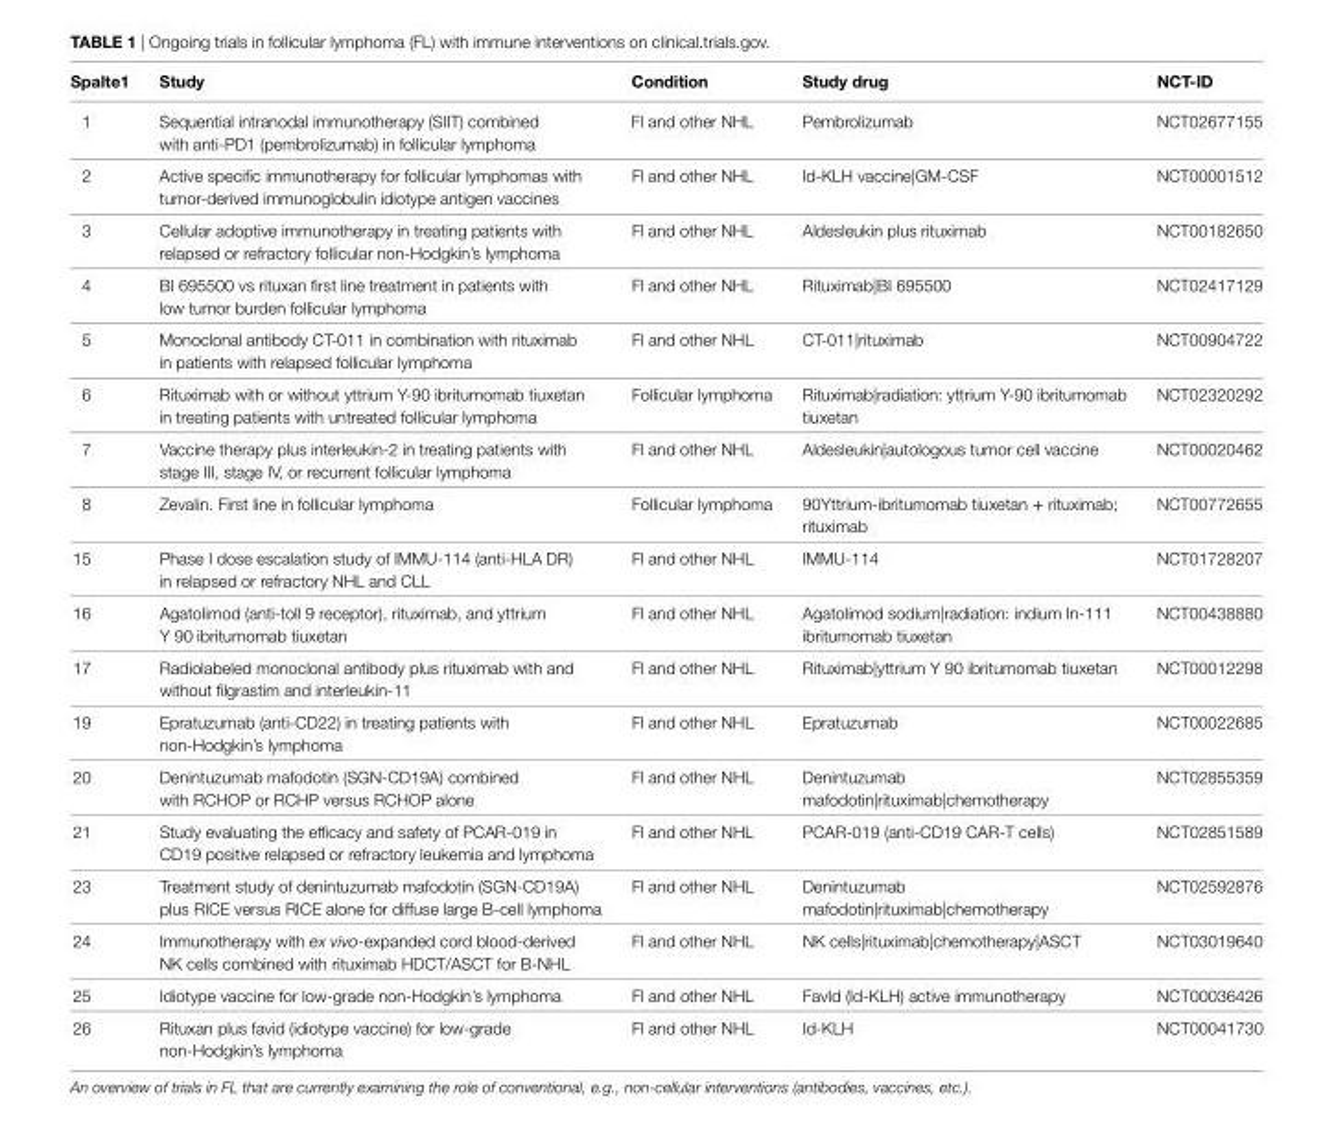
<table><thead><tr><td>Spalte1</td><td>Study</td><td>Condition</td><td>Study drug</td><td>NCT-iD</td></tr></thead><tbody><tr><td>1</td><td>Sequential intranodal immunotherapy (SIIT) combined with anti-PD1 (pembrolizumab) in follicular lymphoma</td><td>Fl and other NHL</td><td>Pembrolizumab</td><td>NCT02677155</td></tr><tr><td>2</td><td>Active specific immunotherapy for follicular lymphomas with tumor-derived immunoglobulin idiotype antigen vaccines</td><td>Fl and other NHL</td><td>Id-KLH vaccine|GM-CSF</td><td>NCT00001512</td></tr><tr><td>3</td><td>Cellular adoptive immunotherapy in treating patients with relapsed or refractory follicular non-Hodgkin’s lymphoma</td><td>Fl and other NHL</td><td>Aldesleukin plus rituximab</td><td>NCT00182650</td></tr><tr><td>4</td><td>BI 695500 vs rituxan first line treatment in patients with low tumor burden follicular lymphoma</td><td>Fl and other NHL</td><td>Rituximab|BI 695500</td><td>NCT02417129</td></tr><tr><td>5</td><td>Monoclonal antibody CT-011 in combination with rituximab in patients with relapsed follicular lymphoma</td><td>Fl and other NHL</td><td>CT-011|rituximab</td><td>NCT00904722</td></tr><tr><td>6</td><td>Rituximab with or without yttrium Y-90 ibritumomab tiuxetan in treating patients with untreated follicular lymphoma</td><td>Follicular lymphoma</td><td>Rituximab|radiation: yttrium Y-90 ibritumomab tiuxetan</td><td>NCT02320292</td></tr><tr><td>7</td><td>Vaccine therapy plus interleukin-2 in treating patients with stage III, stage IV, or recurrent follicular lymphoma</td><td>Fl and other NHL</td><td>Aldesleukin|autologous tumor cell vaccine</td><td>NCT00020462</td></tr><tr><td>8</td><td>Zevalin. First line in follicular lymphoma</td><td>Follicular lymphoma</td><td>90Yttrium-ibritumomab tiuxetan + rituximab; rituximab</td><td>NCT00772655</td></tr><tr><td>15</td><td>Phase I dose escalation study of IMMU-114 (anti-HLA DR) in relapsed or refractory NHL and CLL</td><td>Fl and other NHL</td><td>IMMU-114</td><td>NCT01728207</td></tr><tr><td>16</td><td>Agatolimod (anti-toll 9 receptor), rituximab, and yttrium Y 90 ibritumomab tiuxetan</td><td>Fl and other NHL</td><td>Agatolimod sodium|radiation: indium In-111 ibritumomab tiuxetan</td><td>NCT00438880</td></tr><tr><td>17</td><td>Radiolabeled monoclonal antibody plus rituximab with and without filgrastim and interleukin-11</td><td>Fl and other NHL</td><td>Rituximab|yttrium Y 90 ibritumomab tiuxetan</td><td>NCT00012298</td></tr><tr><td>19</td><td>Epratuzumab (anti-CD22) in treating patients with non-Hodgkin’s lymphoma</td><td>Fl and other NHL</td><td>Epratuzumab</td><td>NCT00022685</td></tr><tr><td>20</td><td>Denintuzumab mafodotin (SGN-CD19A) combined with RCHOP or RCHP versus RCHOP alone</td><td>Fl and other NHL</td><td>Denintuzumab mafodotin|rituximab|chemotherapy</td><td>NCT02855359</td></tr><tr><td>21</td><td>Study evaluating the efficacy and safety of PCAR-019 in CD19 positive relapsed or refractory leukemia and lymphoma</td><td>Fl and other NHL</td><td>PCAR-019 (anti-CD19 CAR-T cells)</td><td>NCT02851589</td></tr><tr><td>23</td><td>Treatment study of denintuzumab mafodotin (SGN-CD19A) plus RICE versus RICE alone for diffuse large B-cell lymphoma</td><td>Fl and other NHL</td><td>Denintuzumab mafodotin|rituximab|chemotherapy</td><td>NCT02592876</td></tr><tr><td>24</td><td>Immunotherapy with ex vivo-expanded cord blood-derived NK cells combined with rituximab HDCT/ASCT for B-NHL</td><td>Fl and other NHL</td><td>NK cells|rituximab|chemotherapy|ASCT</td><td>NCT03019640</td></tr><tr><td>25</td><td>Idiotype vaccine for low-grade non-Hodgkin’s lymphoma</td><td>Fl and other NHL</td><td>FavId (Id-KLH) active immunotherapy</td><td>NCT00036426</td></tr><tr><td>26</td><td>Rituxan plus favid (idiotype vaccine) for low-grade non-Hodgkin’s lymphoma</td><td>Fl and other NHL</td><td>Id-KLH</td><td>NCT00041730</td></tr></tbody></table>